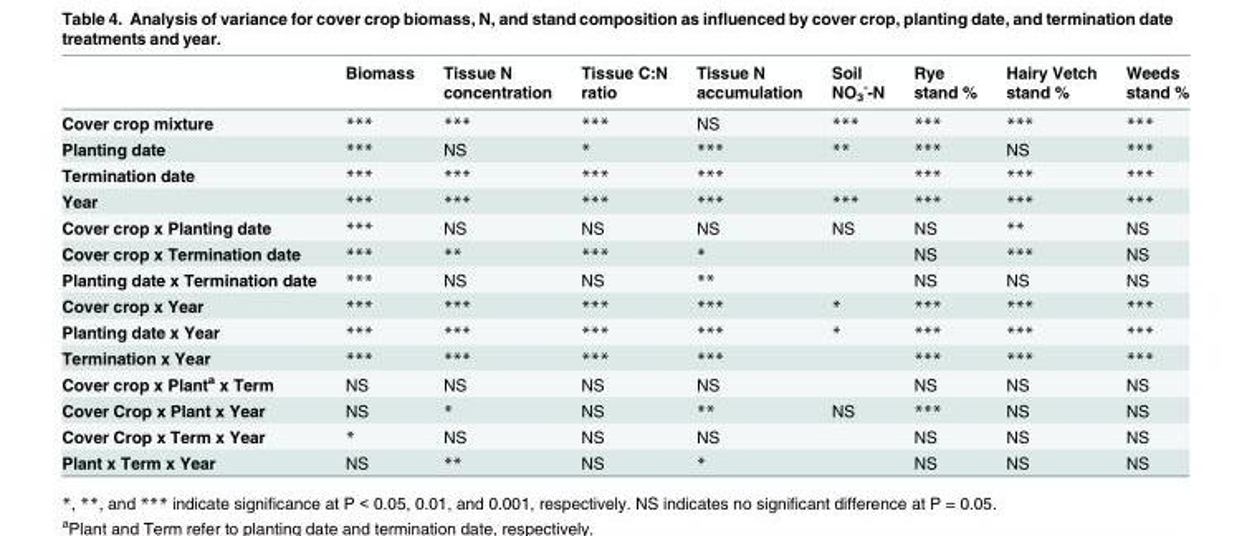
<table><thead><tr><td></td><td>Biomass</td><td>Tissue N concentration</td><td>Tissue C:N ratio</td><td>Tissue N accumulation</td><td>Soil NO<sub>3</sub> <sup>-</sup>-N</td><td>Rye stand %</td><td>Hairy Vetch stand %</td><td>Weeds stand %</td></tr></thead><tbody><tr><td>Cover crop mixture</td><td>***</td><td>***</td><td>***</td><td>NS</td><td>***</td><td>***</td><td>***</td><td>***</td></tr><tr><td>Planting date</td><td>***</td><td>NS</td><td>*</td><td>***</td><td>**</td><td>***</td><td>NS</td><td>***</td></tr><tr><td>Termination date</td><td>***</td><td>***</td><td>***</td><td>***</td><td></td><td>***</td><td>***</td><td>***</td></tr><tr><td>Year</td><td>***</td><td>***</td><td>***</td><td>***</td><td>***</td><td>***</td><td>***</td><td>***</td></tr><tr><td>Cover crop x Planting date</td><td>***</td><td>NS</td><td>NS</td><td>NS</td><td>NS</td><td>NS</td><td>**</td><td>NS</td></tr><tr><td>Cover crop x Termination date</td><td>***</td><td>**</td><td>***</td><td>*</td><td></td><td>NS</td><td>***</td><td>NS</td></tr><tr><td>Planting date x Termination date</td><td>***</td><td>NS</td><td>NS</td><td>**</td><td></td><td>NS</td><td>NS</td><td>NS</td></tr><tr><td>Cover crop x Year</td><td>***</td><td>***</td><td>***</td><td>***</td><td>*</td><td>***</td><td>***</td><td>***</td></tr><tr><td>Planting date x Year</td><td>***</td><td>***</td><td>***</td><td>***</td><td>*</td><td>***</td><td>***</td><td>***</td></tr><tr><td>Termination x Year</td><td>***</td><td>***</td><td>***</td><td>***</td><td></td><td>***</td><td>***</td><td>***</td></tr><tr><td>Cover crop x Plant<sup>a</sup> x Term</td><td>NS</td><td>NS</td><td>NS</td><td>NS</td><td></td><td>NS</td><td>NS</td><td>NS</td></tr><tr><td>Cover Crop x Plant x Year</td><td>NS</td><td>*</td><td>NS</td><td>**</td><td>NS</td><td>***</td><td>NS</td><td>NS</td></tr><tr><td>Cover Crop x Term x Year</td><td>*</td><td>NS</td><td>NS</td><td>NS</td><td></td><td>NS</td><td>NS</td><td>NS</td></tr><tr><td>Plant x Term x Year</td><td>NS</td><td>**</td><td>NS</td><td>*</td><td></td><td>NS</td><td>NS</td><td>NS</td></tr></tbody></table>